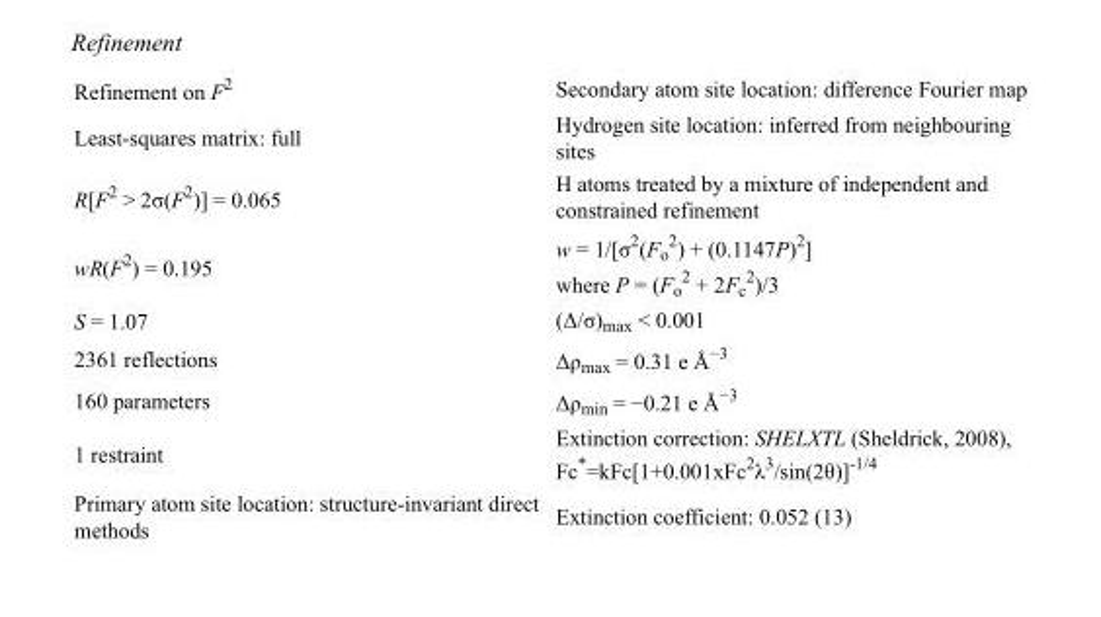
<table><tbody><tr><td>Refinement on F<sup>2</sup></td><td>Secondary atom site location: difference Fourier map</td></tr><tr><td>Least-squares matrix: full</td><td>Hydrogen site location: inferred from neighbouring sites</td></tr><tr><td>R[F<sup>2</sup> &gt; 2σ(F<sup>2</sup>)] = 0.065</td><td>H atoms treated by a mixture of independent and constrained refinement</td></tr><tr><td>wR(F<sup>2</sup>) = 0.195</td><td>w = 1/[σ<sup>2</sup>(F<sub>o</sub> <sup>2</sup>) + (0.1147P)<sup>2</sup>] where P = (F<sub>o</sub> <sup>2</sup> + 2F<sub>c</sub> <sup>2</sup>)/3</td></tr><tr><td>S = 1.07</td><td>(Δ/σ)<sub>max</sub> &lt; 0.001</td></tr><tr><td>2361 reflections</td><td>Δρ<sub>max</sub> = 0.31 e Å<sup>−3</sup></td></tr><tr><td>160 parameters</td><td>Δρ<sub>min</sub> = −0.21 e Å<sup>−3</sup></td></tr><tr><td>1 restraint</td><td>Extinction correction: SHELXTL (Sheldrick, 2008), Fc*=kFc[1+0.001xFc<sup>2</sup>λ<sup>3</sup>/sin(2θ)]<sup>-1/4</sup></td></tr><tr><td>Primary atom site location: structure-invariant direct methods</td><td>Extinction coefficient: 0.052 (13)</td></tr></tbody></table>